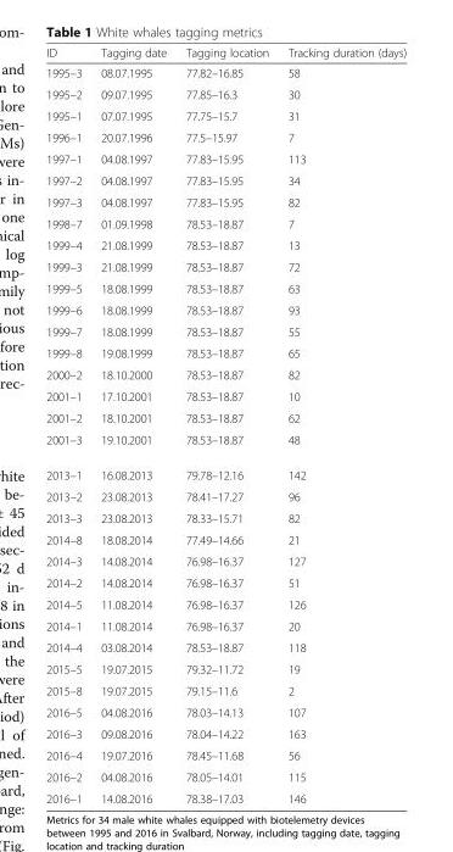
<table><thead><tr><td>ID</td><td>Tagging date</td><td>Tagging location</td><td>Tracking duration (days)</td></tr></thead><tbody><tr><td>1995–3</td><td>08.07.1995</td><td>77.82–16.85</td><td>58</td></tr><tr><td>1995–2</td><td>09.07.1995</td><td>77.85–16.3</td><td>30</td></tr><tr><td>1995–1</td><td>07.07.1995</td><td>77.75–15.7</td><td>31</td></tr><tr><td>1996–1</td><td>20.07.1996</td><td>77.5–15.97</td><td>7</td></tr><tr><td>1997–1</td><td>04.08.1997</td><td>77.83–15.95</td><td>113</td></tr><tr><td>1997–2</td><td>04.08.1997</td><td>77.83–15.95</td><td>34</td></tr><tr><td>1997–3</td><td>04.08.1997</td><td>77.83–15.95</td><td>82</td></tr><tr><td>1998–7</td><td>01.09.1998</td><td>78.53–18.87</td><td>7</td></tr><tr><td>1999–4</td><td>21.08.1999</td><td>78.53–18.87</td><td>13</td></tr><tr><td>1999–3</td><td>21.08.1999</td><td>78.53–18.87</td><td>72</td></tr><tr><td>1999–5</td><td>18.08.1999</td><td>78.53–18.87</td><td>63</td></tr><tr><td>1999–6</td><td>18.08.1999</td><td>78.53–18.87</td><td>93</td></tr><tr><td>1999–7</td><td>18.08.1999</td><td>78.53–18.87</td><td>55</td></tr><tr><td>1999–8</td><td>19.08.1999</td><td>78.53–18.87</td><td>65</td></tr><tr><td>2000–2</td><td>18.10.2000</td><td>78.53–18.87</td><td>82</td></tr><tr><td>2001–1</td><td>17.10.2001</td><td>78.53–18.87</td><td>10</td></tr><tr><td>2001–2</td><td>18.10.2001</td><td>78.53–18.87</td><td>62</td></tr><tr><td>2001–3</td><td>19.10.2001</td><td>78.53–18.87</td><td>48</td></tr><tr><td>2013–1</td><td>16.08.2013</td><td>79.78–12.16</td><td>142</td></tr><tr><td>2013–2</td><td>23.08.2013</td><td>78.41–17.27</td><td>96</td></tr><tr><td>2013–3</td><td>23.08.2013</td><td>78.33–15.71</td><td>82</td></tr><tr><td>2014–8</td><td>18.08.2014</td><td>77.49–14.66</td><td>21</td></tr><tr><td>2014–3</td><td>14.08.2014</td><td>76.98–16.37</td><td>127</td></tr><tr><td>2014–2</td><td>14.08.2014</td><td>76.98–16.37</td><td>51</td></tr><tr><td>2014–5</td><td>11.08.2014</td><td>76.98–16.37</td><td>126</td></tr><tr><td>2014–1</td><td>11.08.2014</td><td>76.98–16.37</td><td>20</td></tr><tr><td>2014–4</td><td>03.08.2014</td><td>78.53–18.87</td><td>118</td></tr><tr><td>2015–5</td><td>19.07.2015</td><td>79.32–11.72</td><td>19</td></tr><tr><td>2015–8</td><td>19.07.2015</td><td>79.15–11.6</td><td>2</td></tr><tr><td>2016–5</td><td>04.08.2016</td><td>78.03–14.13</td><td>107</td></tr><tr><td>2016–3</td><td>09.08.2016</td><td>78.04–14.22</td><td>163</td></tr><tr><td>2016–4</td><td>19.07.2016</td><td>78.45–11.68</td><td>56</td></tr><tr><td>2016–2</td><td>04.08.2016</td><td>78.05–14.01</td><td>115</td></tr><tr><td>2016–1</td><td>14.08.2016</td><td>78.38–17.03</td><td>146</td></tr></tbody></table>